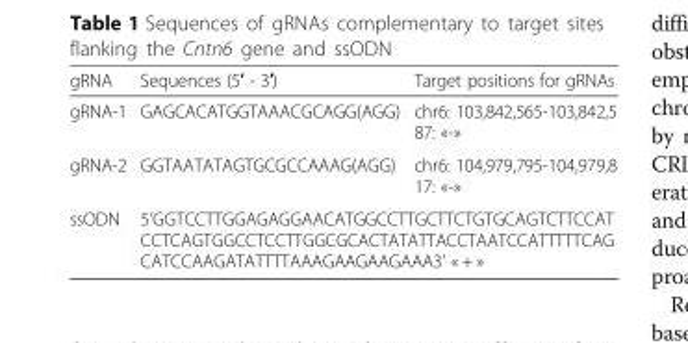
<table><thead><tr><td>gRNA</td><td>Sequences (5′ - 3′)</td><td>Target positions for gRNAs</td></tr></thead><tbody><tr><td>gRNA-1</td><td>GAGCACATGGTAAACGCAGG(AGG)</td><td>chr6: 103,842,565-103,842,5 87: «-»</td></tr><tr><td>gRNA-2</td><td>GGTAATATAGTGCGCCAAAG(AGG)</td><td>chr6: 104,979,795-104,979,8 17: «-»</td></tr><tr><td>ssODN</td><td colspan="2">5’GGTCCTTGGAGAGGAACATGGCCTTGCTTCTGTGCAGTCTTCCAT CCTCAGTGGCCTCCTTGGCGCACTATATTACCTAATCCATTTTTCAG CATCCAAGATATTTTAAAGAAGAAGAAA3’ « + »</td></tr></tbody></table>